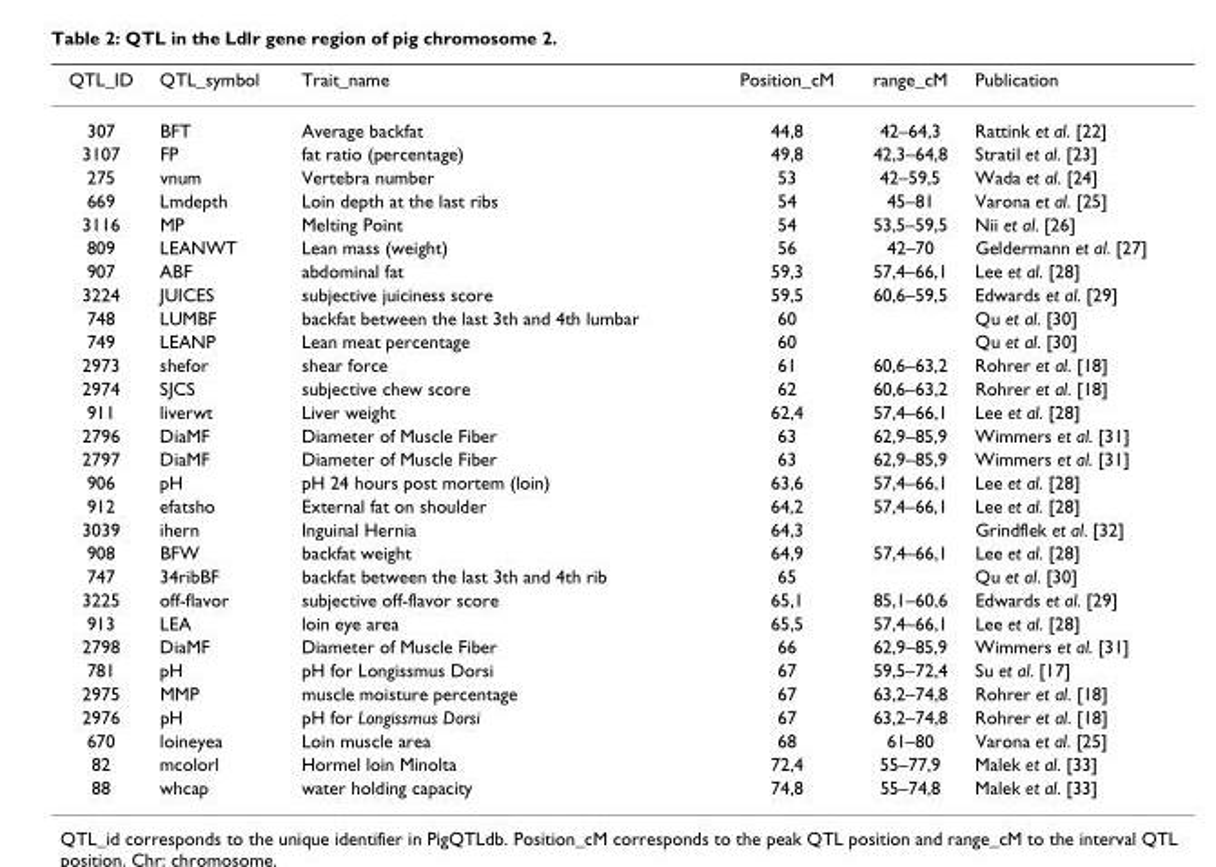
<table><thead><tr><td>QTL_ID</td><td>QTL_symbol</td><td>Trait_name</td><td>Position_cM</td><td>range_cM</td><td>Publication</td></tr></thead><tbody><tr><td>307</td><td>BFT</td><td>Average backfat</td><td>44,8</td><td>42–64,3</td><td>Rattink et al. [22]</td></tr><tr><td>3107</td><td>FP</td><td>fat ratio (percentage)</td><td>49,8</td><td>42,3–64,8</td><td>Stratil et al. [23]</td></tr><tr><td>275</td><td>vnum</td><td>Vertebra number</td><td>53</td><td>42–59,5</td><td>Wada et al. [24]</td></tr><tr><td>669</td><td>Lmdepth</td><td>Loin depth at the last ribs</td><td>54</td><td>45–81</td><td>Varona et al. [25]</td></tr><tr><td>3116</td><td>MP</td><td>Melting Point</td><td>54</td><td>53,5–59,5</td><td>Nii et al. [26]</td></tr><tr><td>809</td><td>LEANWT</td><td>Lean mass (weight)</td><td>56</td><td>42–70</td><td>Geldermann et al. [27]</td></tr><tr><td>907</td><td>ABF</td><td>abdominal fat</td><td>59,3</td><td>57,4–66,1</td><td>Lee et al. [28]</td></tr><tr><td>3224</td><td>JUICES</td><td>subjective juiciness score</td><td>59,5</td><td>60,6–59,5</td><td>Edwards et al. [29]</td></tr><tr><td>748</td><td>LUMBF</td><td>backfat between the last 3th and 4th lumbar</td><td>60</td><td></td><td>Qu et al. [30]</td></tr><tr><td>749</td><td>LEANP</td><td>Lean meat percentage</td><td>60</td><td></td><td>Qu et al. [30]</td></tr><tr><td>2973</td><td>shefor</td><td>shear force</td><td>61</td><td>60,6–63,2</td><td>Rohrer et al. [18]</td></tr><tr><td>2974</td><td>SJCS</td><td>subjective chew score</td><td>62</td><td>60,6–63,2</td><td>Rohrer et al. [18]</td></tr><tr><td>911</td><td>liverwt</td><td>Liver weight</td><td>62,4</td><td>57,4–66,1</td><td>Lee et al. [28]</td></tr><tr><td>2796</td><td>DiaMF</td><td>Diameter of Muscle Fiber</td><td>63</td><td>62,9–85,9</td><td>Wimmers et al. [31]</td></tr><tr><td>2797</td><td>DiaMF</td><td>Diameter of Muscle Fiber</td><td>63</td><td>62,9–85,9</td><td>Wimmers et al. [31]</td></tr><tr><td>906</td><td>pH</td><td>pH 24 hours post mortem (loin)</td><td>63,6</td><td>57,4–66,1</td><td>Lee et al. [28]</td></tr><tr><td>912</td><td>efatsho</td><td>External fat on shoulder</td><td>64,2</td><td>57,4–66,1</td><td>Lee et al. [28]</td></tr><tr><td>3039</td><td>ihern</td><td>Inguinal Hernia</td><td>64,3</td><td></td><td>Grindflek et al. [32]</td></tr><tr><td>908</td><td>BFW</td><td>backfat weight</td><td>64,9</td><td>57,4–66,1</td><td>Lee et al. [28]</td></tr><tr><td>747</td><td>34ribBF</td><td>backfat between the last 3th and 4th rib</td><td>65</td><td></td><td>Qu et al. [30]</td></tr><tr><td>3225</td><td>off-flavor</td><td>subjective off-flavor score</td><td>65,1</td><td>85,1–60,6</td><td>Edwards et al. [29]</td></tr><tr><td>913</td><td>LEA</td><td>loin eye area</td><td>65,5</td><td>57,4–66,1</td><td>Lee et al. [28]</td></tr><tr><td>2798</td><td>DiaMF</td><td>Diameter of Muscle Fiber</td><td>66</td><td>62,9–85,9</td><td>Wimmers et al. [31]</td></tr><tr><td>781</td><td>pH</td><td>pH for Longissmus Dorsi</td><td>67</td><td>59,5–72,4</td><td>Su et al. [17]</td></tr><tr><td>2975</td><td>MMP</td><td>muscle moisture percentage</td><td>67</td><td>63,2–74,8</td><td>Rohrer et al. [18]</td></tr><tr><td>2976</td><td>pH</td><td>pH for Longissmus Dorsi</td><td>67</td><td>63,2–74,8</td><td>Rohrer et al. [18]</td></tr><tr><td>670</td><td>loineyea</td><td>Loin muscle area</td><td>68</td><td>61–80</td><td>Varona et al. [25]</td></tr><tr><td>82</td><td>mcolorl</td><td>Hormel loin Minolta</td><td>72,4</td><td>55–77,9</td><td>Malek et al. [33]</td></tr><tr><td>88</td><td>whcap</td><td>water holding capacity</td><td>74,8</td><td>55–74,8</td><td>Malek et al. [33]</td></tr></tbody></table>